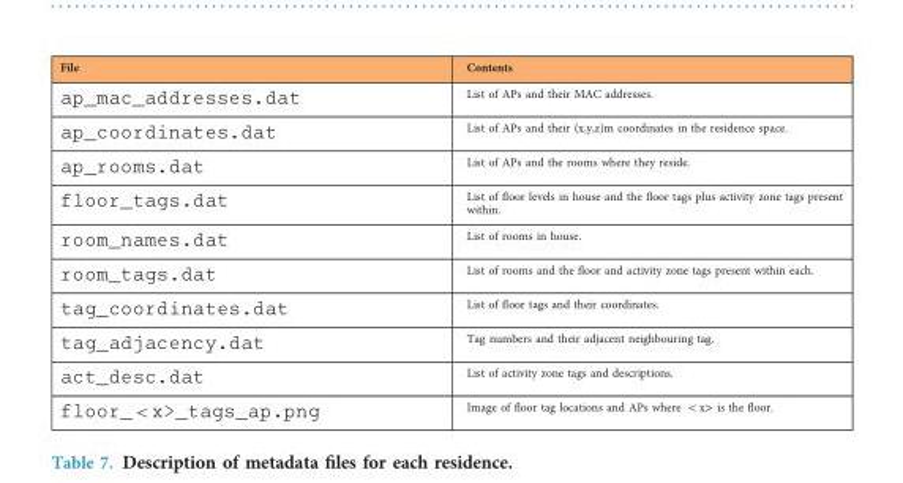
<table><thead><tr><td>File</td><td>Contents</td></tr></thead><tbody><tr><td>ap_mac_addresses.dat</td><td>List of APs and their MAC addresses.</td></tr><tr><td>ap_coordinates.dat</td><td>List of APs and their (x,y,z)m coordinates in the residence space.</td></tr><tr><td>ap_rooms.dat</td><td>List of APs and the rooms where they reside.</td></tr><tr><td>floor_tags.dat</td><td>List of floor levels in house and the floor tags plus activity zone tags present within.</td></tr><tr><td>room_names.dat</td><td>List of rooms in house.</td></tr><tr><td>room_tags.dat</td><td>List of rooms and the floor and activity zone tags present within each.</td></tr><tr><td>tag_coordinates.dat</td><td>List of floor tags and their coordinates.</td></tr><tr><td>tag_adjacency.dat</td><td>Tag numbers and their adjacent neighbouring tag.</td></tr><tr><td>act_desc.dat</td><td>List of activity zone tags and descriptions.</td></tr><tr><td>floor_&lt;x&gt;_tags_ap.png</td><td>Image of floor tag locations and APs where &lt;x&gt; is the floor.</td></tr></tbody></table>